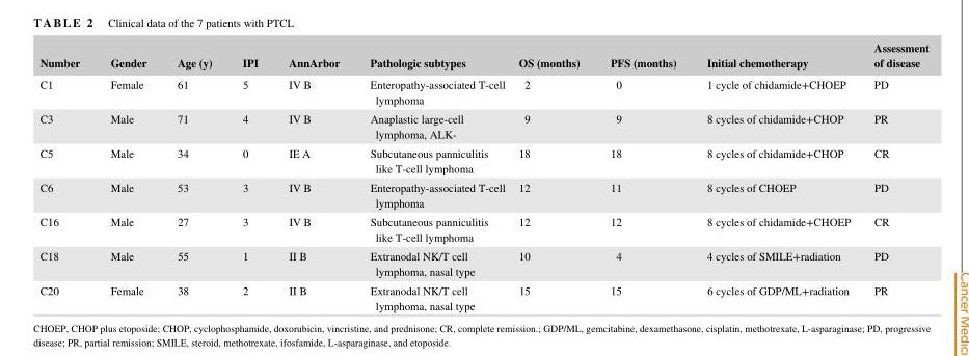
<table><thead><tr><td>Number</td><td>Gender</td><td>Age (y)</td><td>IPI</td><td>AnnArbor</td><td>Pathologic subtypes</td><td>OS (months)</td><td>PFS (months)</td><td>Initial chemotherapy</td><td>Assessment of disease</td></tr></thead><tbody><tr><td>C1</td><td>Female</td><td>61</td><td>5</td><td>IV B</td><td>Enteropathy‐associated T‐cell lymphoma</td><td>2</td><td>0</td><td>1 cycle of chidamide+CHOEP</td><td>PD</td></tr><tr><td>C3</td><td>Male</td><td>71</td><td>4</td><td>IV B</td><td>Anaplastic large‐cell lymphoma, ALK‐</td><td>9</td><td>9</td><td>8 cycles of chidamide+CHOP</td><td>PR</td></tr><tr><td>C5</td><td>Male</td><td>34</td><td>0</td><td>IE A</td><td>Subcutaneous panniculitis like T‐cell lymphoma</td><td>18</td><td>18</td><td>8 cycles of chidamide+CHOP</td><td>CR</td></tr><tr><td>C6</td><td>Male</td><td>53</td><td>3</td><td>IV B</td><td>Enteropathy‐associated T‐cell lymphoma</td><td>12</td><td>11</td><td>8 cycles of CHOEP</td><td>PD</td></tr><tr><td>C16</td><td>Male</td><td>27</td><td>3</td><td>IV B</td><td>Subcutaneous panniculitis like T‐cell lymphoma</td><td>12</td><td>12</td><td>8 cycles of chidamide+CHOEP</td><td>CR</td></tr><tr><td>C18</td><td>Male</td><td>55</td><td>1</td><td>II B</td><td>Extranodal NK/T cell lymphoma, nasal type</td><td>10</td><td>4</td><td>4 cycles of SMILE+radiation</td><td>PD</td></tr><tr><td>C20</td><td>Female</td><td>38</td><td>2</td><td>II B</td><td>Extranodal NK/T cell lymphoma, nasal type</td><td>15</td><td>15</td><td>6 cycles of GDP/ML+radiation</td><td>PR</td></tr></tbody></table>